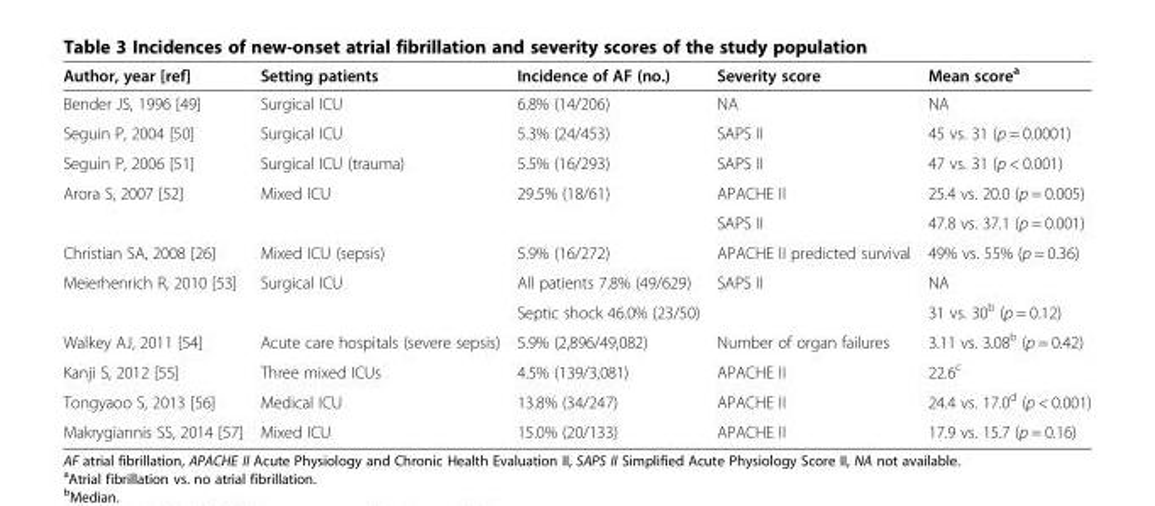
<table><thead><tr><td>Author, year [ref]</td><td>Setting patients</td><td>Incidence of AF (no.)</td><td>Severity score</td><td>Mean score<sup>a</sup></td></tr></thead><tbody><tr><td>Bender JS, 1996 [49]</td><td>Surgical ICU</td><td>6.8% (14/206)</td><td>NA</td><td>NA</td></tr><tr><td>Seguin P, 2004 [50]</td><td>Surgical ICU</td><td>5.3% (24/453)</td><td>SAPS II</td><td>45 vs. 31 (p = 0.0001)</td></tr><tr><td>Seguin P, 2006 [51]</td><td>Surgical ICU (trauma)</td><td>5.5% (16/293)</td><td>SAPS II</td><td>47 vs. 31 (p &lt; 0.001)</td></tr><tr><td rowspan="2">Arora S, 2007 [52]</td><td rowspan="2">Mixed ICU</td><td rowspan="2">29.5% (18/61)</td><td>APACHE II</td><td>25.4 vs. 20.0 (p = 0.005)</td></tr><tr><td>SAPS II</td><td>47.8 vs. 37.1 (p = 0.001)</td></tr><tr><td>Christian SA, 2008 [26]</td><td>Mixed ICU (sepsis)</td><td>5.9% (16/272)</td><td>APACHE II predicted survival</td><td>49% vs. 55% (p = 0.36)</td></tr><tr><td rowspan="2">Meierhenrich R, 2010 [53]</td><td rowspan="2">Surgical ICU</td><td>All patients 7.8% (49/629)</td><td rowspan="2">SAPS II</td><td>NA</td></tr><tr><td>Septic shock 46.0% (23/50)</td><td>31 vs. 30<sup>b</sup> (p = 0.12)</td></tr><tr><td>Walkey AJ, 2011 [54]</td><td>Acute care hospitals (severe sepsis)</td><td>5.9% (2,896/49,082)</td><td>Number of organ failures</td><td>3.11 vs. 3.08<sup>b</sup> (p = 0.42)</td></tr><tr><td>Kanji S, 2012 [55]</td><td>Three mixed ICUs</td><td>4.5% (139/3,081)</td><td>APACHE II</td><td>22.6<sup>c</sup></td></tr><tr><td>Tongyaoo S, 2013 [56]</td><td>Medical ICU</td><td>13.8% (34/247)</td><td>APACHE II</td><td>24.4 vs. 17.0<sup>d</sup> (p &lt; 0.001)</td></tr><tr><td>Makrygiannis SS, 2014 [57]</td><td>Mixed ICU</td><td>15.0% (20/133)</td><td>APACHE II</td><td>17.9 vs. 15.7 (p = 0.16)</td></tr></tbody></table>